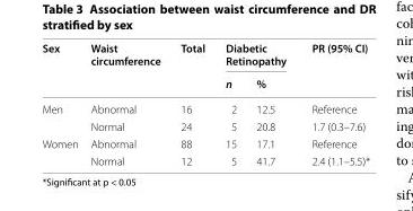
<table><thead><tr><td rowspan="2">Sex</td><td rowspan="2">Waist circumference</td><td rowspan="2">Total</td><td colspan="2">Diabetic Retinopathy</td><td rowspan="2">PR (95% CI)</td></tr><tr><td>n</td><td>%</td></tr></thead><tbody><tr><td rowspan="2">Men</td><td>Abnormal</td><td>16</td><td>2</td><td>12.5</td><td>Reference</td></tr><tr><td>Normal</td><td>24</td><td>5</td><td>20.8</td><td>1.7 (0.3–7.6)</td></tr><tr><td rowspan="2">Women</td><td>Abnormal</td><td>88</td><td>15</td><td>17.1</td><td>Reference</td></tr><tr><td>Normal</td><td>12</td><td>5</td><td>41.7</td><td>2.4 (1.1–5.5)*</td></tr></tbody></table>